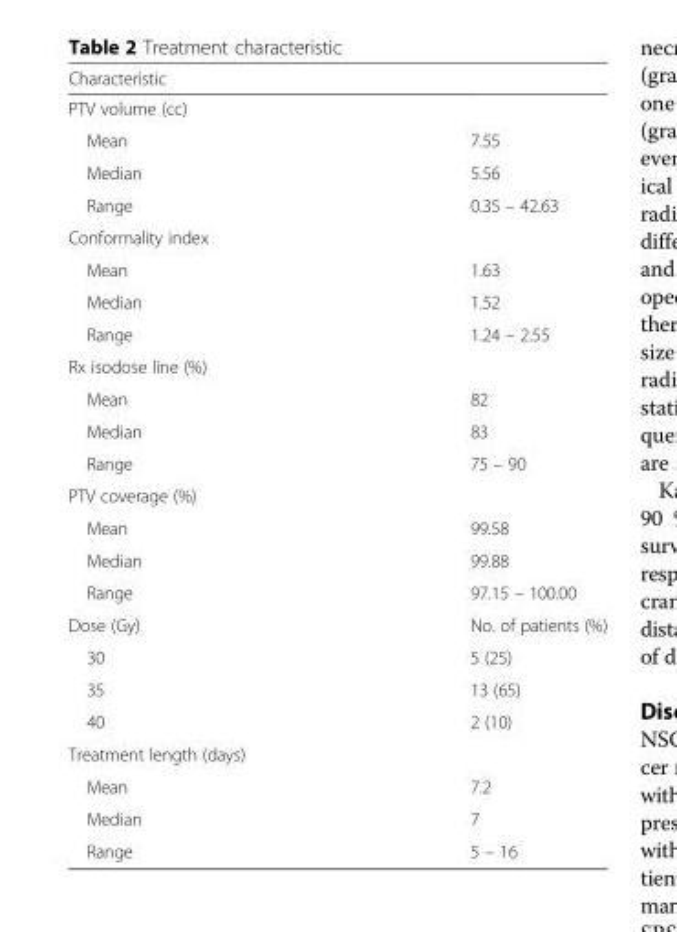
<table><thead><tr><td>Characteristic</td><td></td></tr></thead><tbody><tr><td colspan="2">PTV volume (cc)</td></tr><tr><td>Mean</td><td>7.55</td></tr><tr><td>Median</td><td>5.56</td></tr><tr><td>Range</td><td>0.35 – 42.63</td></tr><tr><td colspan="2">Conformality index</td></tr><tr><td>Mean</td><td>1.63</td></tr><tr><td>Median</td><td>1.52</td></tr><tr><td>Range</td><td>1.24 – 2.55</td></tr><tr><td colspan="2">Rx isodose line (%)</td></tr><tr><td>Mean</td><td>82</td></tr><tr><td>Median</td><td>83</td></tr><tr><td>Range</td><td>75 – 90</td></tr><tr><td colspan="2">PTV coverage (%)</td></tr><tr><td>Mean</td><td>99.58</td></tr><tr><td>Median</td><td>99.88</td></tr><tr><td>Range</td><td>97.15 – 100.00</td></tr><tr><td>Dose (Gy)</td><td>No. of patients (%)</td></tr><tr><td>30</td><td>5 (25)</td></tr><tr><td>35</td><td>13 (65)</td></tr><tr><td>40</td><td>2 (10)</td></tr><tr><td colspan="2">Treatment length (days)</td></tr><tr><td>Mean</td><td>7.2</td></tr><tr><td>Median</td><td>7</td></tr><tr><td>Range</td><td>5 – 16</td></tr></tbody></table>